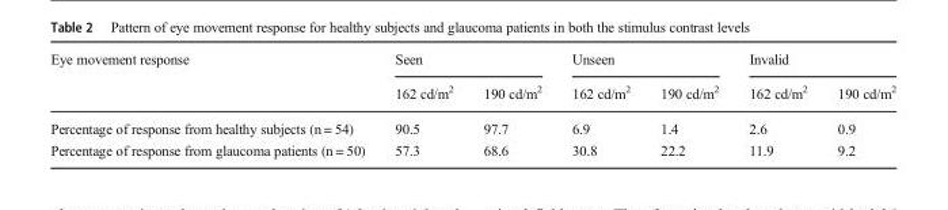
<table><thead><tr><td rowspan="2">Eye movement response</td><td colspan="2">Seen</td><td colspan="2">Unseen</td><td colspan="2">Invalid</td></tr><tr><td>162 cd/m<sup>2</sup></td><td>190 cd/m<sup>2</sup></td><td>162 cd/m<sup>2</sup></td><td>190 cd/m<sup>2</sup></td><td>162 cd/m<sup>2</sup></td><td>190 cd/m<sup>2</sup></td></tr></thead><tbody><tr><td>Percentage of response from healthy subjects (n = 54)</td><td>90.5</td><td>97.7</td><td>6.9</td><td>1.4</td><td>2.6</td><td>0.9</td></tr><tr><td>Percentage of response from glaucoma patients (n = 50)</td><td>57.3</td><td>68.6</td><td>30.8</td><td>22.2</td><td>11.9</td><td>9.2</td></tr></tbody></table>